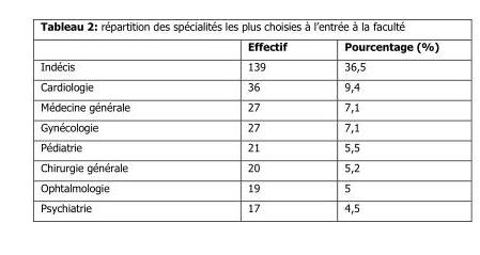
<table><thead><tr><td></td><td>Effectif</td><td>Pourcentage (%)</td></tr></thead><tbody><tr><td>Indécis</td><td>139</td><td>36,5</td></tr><tr><td>Cardiologie</td><td>36</td><td>9,4</td></tr><tr><td>Médecine générale</td><td>27</td><td>7,1</td></tr><tr><td>Gynécologie</td><td>27</td><td>7,1</td></tr><tr><td>Pédiatrie</td><td>21</td><td>5,5</td></tr><tr><td>Chirurgie générale</td><td>20</td><td>5,2</td></tr><tr><td>Ophtalmologie</td><td>19</td><td>5</td></tr><tr><td>Psychiatrie</td><td>17</td><td>4,5</td></tr></tbody></table>